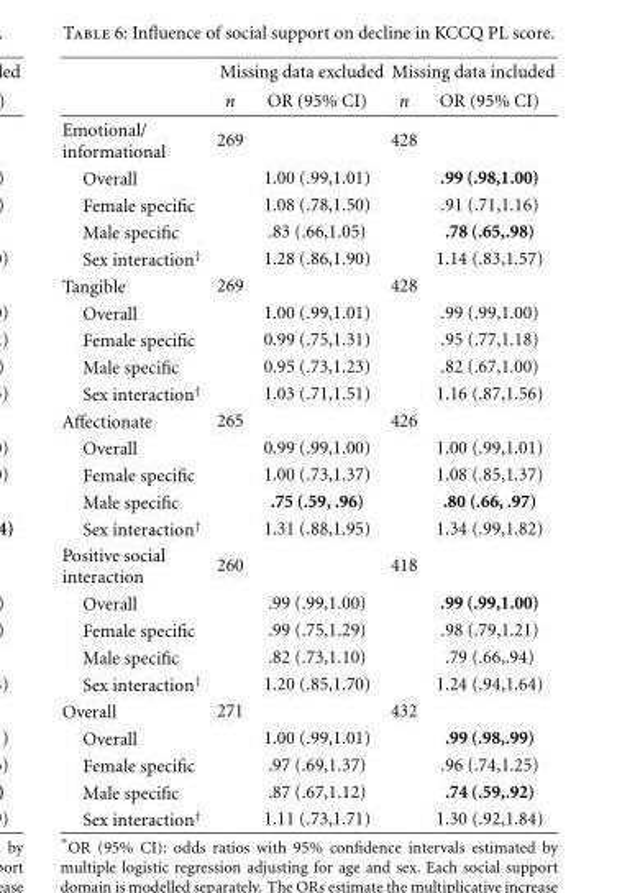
<table><thead><tr><td rowspan="2"></td><td colspan="2">Missing data excluded</td><td colspan="2">Missing data included</td></tr><tr><td>n</td><td>OR (95% CI)</td><td>n</td><td>OR (95% CI)</td></tr></thead><tbody><tr><td>Emotional/ informational</td><td>269</td><td></td><td>428</td><td></td></tr><tr><td>Overall</td><td></td><td>1.00 (.99,1.01)</td><td></td><td>.99 (.98,1.00)</td></tr><tr><td>Female specific</td><td></td><td>1.08 (.78,1.50)</td><td></td><td>.91 (.71,1.16)</td></tr><tr><td>Male specific</td><td></td><td>.83 (.66,1.05)</td><td></td><td>.78 (.65,.98)</td></tr><tr><td>Sex interaction<sup>†</sup></td><td></td><td>1.28 (.86,1.90)</td><td></td><td>1.14 (.83,1.57)</td></tr><tr><td>Tangible</td><td>269</td><td></td><td>428</td><td></td></tr><tr><td>Overall</td><td></td><td>1.00 (.99,1.01)</td><td></td><td>.99 (.99,1.00)</td></tr><tr><td>Female specific</td><td></td><td>0.99 (.75,1.31)</td><td></td><td>.95 (.77,1.18)</td></tr><tr><td>Male specific</td><td></td><td>0.95 (.73,1.23)</td><td></td><td>.82 (.67,1.00)</td></tr><tr><td>Sex interaction<sup>†</sup></td><td></td><td>1.03 (.71,1.51)</td><td></td><td>1.16 (.87,1.56)</td></tr><tr><td>Affectionate</td><td>265</td><td></td><td>426</td><td></td></tr><tr><td>Overall</td><td></td><td>0.99 (.99,1.00)</td><td></td><td>1.00 (.99,1.01)</td></tr><tr><td>Female specific</td><td></td><td>1.00 (.73,1.37)</td><td></td><td>1.08 (.85,1.37)</td></tr><tr><td>Male specific</td><td></td><td>.75 (.59, .96)</td><td></td><td>.80 (.66, .97)</td></tr><tr><td>Sex interaction<sup>†</sup></td><td></td><td>1.31 (.88,1.95)</td><td></td><td>1.34 (.99,1.82)</td></tr><tr><td>Positive social interaction</td><td>260</td><td></td><td>418</td><td></td></tr><tr><td>Overall</td><td></td><td>.99 (.99,1.00)</td><td></td><td>.99 (.99,1.00)</td></tr><tr><td>Female specific</td><td></td><td>.99 (.75,1.29)</td><td></td><td>.98 (.79,1.21)</td></tr><tr><td>Male specific</td><td></td><td>.82 (.73,1.10)</td><td></td><td>.79 (.66,.94)</td></tr><tr><td>Sex interaction<sup>†</sup></td><td></td><td>1.20 (.85,1.70)</td><td></td><td>1.24 (.94,1.64)</td></tr><tr><td>Overall</td><td>271</td><td></td><td>432</td><td></td></tr><tr><td>Overall</td><td></td><td>1.00 (.99,1.01)</td><td></td><td>.99 (.98,.99)</td></tr><tr><td>Female specific</td><td></td><td>.97 (.69,1.37)</td><td></td><td>.96 (.74,1.25)</td></tr><tr><td>Male specific</td><td></td><td>.87 (.67,1.12)</td><td></td><td>.74 (.59,.92)</td></tr><tr><td>Sex interaction<sup>†</sup></td><td></td><td>1.11 (.73,1.71)</td><td></td><td>1.30 (.92,1.84)</td></tr></tbody></table>